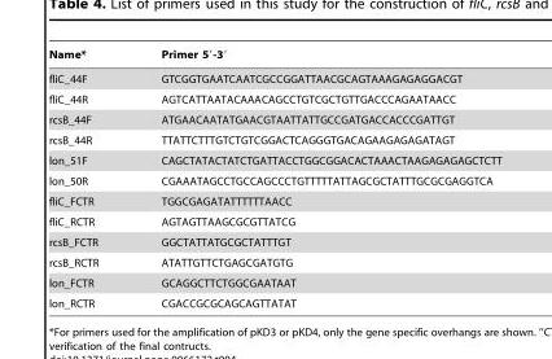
<table><thead><tr><td>Name*</td><td>Primer 5′-3′</td></tr></thead><tbody><tr><td>fliC_44F</td><td>GTCGGTGAATCAATCGCCGGATTAACGCAGTAAAGAGAGGACGT</td></tr><tr><td>fliC_44R</td><td>AGTCATTAATACAAACAGCCTGTCGCTGTTGACCCAGAATAACC</td></tr><tr><td>rcsB_44F</td><td>ATGAACAATATGAACGTAATTATTGCCGATGACCACCCGATTGT</td></tr><tr><td>rcsB_44R</td><td>TTATTCTTTGTCTGTCGGACTCAGGGTGACAGAAGAGAGATAGT</td></tr><tr><td>lon_51F</td><td>CAGCTATACTATCTGATTACCTGGCGGACACTAAACTAAGAGAGAGCTCTT</td></tr><tr><td>lon_50R</td><td>CGAAATAGCCTGCCAGCCCTGTTTTTATTAGCGCTATTTGCGCGAGGTCA</td></tr><tr><td>fliC_FCTR</td><td>TGGCGAGATATTTTTTAACC</td></tr><tr><td>fliC_RCTR</td><td>AGTAGTTAAGCGCGTTATCG</td></tr><tr><td>rcsB_FCTR</td><td>GGCTATTATGCGCTATTTGT</td></tr><tr><td>rcsB_RCTR</td><td>ATATTGTTCTGAGCGATGTG</td></tr><tr><td>lon_FCTR</td><td>GCAGGCTTCTGGCGAATAAT</td></tr><tr><td>lon_RCTR</td><td>CGACCGCGCAGCAGTTATAT</td></tr></tbody></table>